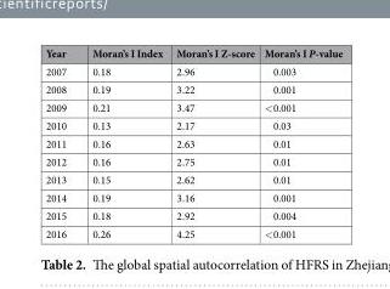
<table><thead><tr><td>Year</td><td>Moran’s I Index</td><td>Moran’s I Z-score</td><td>Moran’s I P-value</td></tr></thead><tbody><tr><td>2007</td><td>0.18</td><td>2.96</td><td>0.003</td></tr><tr><td>2008</td><td>0.19</td><td>3.22</td><td>0.001</td></tr><tr><td>2009</td><td>0.21</td><td>3.47</td><td>&lt;0.001</td></tr><tr><td>2010</td><td>0.13</td><td>2.17</td><td>0.03</td></tr><tr><td>2011</td><td>0.16</td><td>2.63</td><td>0.01</td></tr><tr><td>2012</td><td>0.16</td><td>2.75</td><td>0.01</td></tr><tr><td>2013</td><td>0.15</td><td>2.62</td><td>0.01</td></tr><tr><td>2014</td><td>0.19</td><td>3.16</td><td>0.001</td></tr><tr><td>2015</td><td>0.18</td><td>2.92</td><td>0.004</td></tr><tr><td>2016</td><td>0.26</td><td>4.25</td><td>&lt;0.001</td></tr></tbody></table>